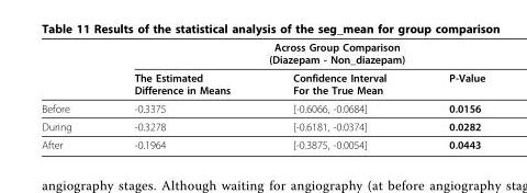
<table><thead><tr><td rowspan="2"></td><td colspan="3">Across Group Comparison (Diazepam - Non_diazepam)</td></tr><tr><td>The Estimated Difference in Means</td><td>Confidence Interval For the True Mean</td><td>P-Value</td></tr></thead><tbody><tr><td>Before</td><td>-0.3375</td><td>[-0.6066, -0.0684]</td><td>0.0156</td></tr><tr><td>During</td><td>-0.3278</td><td>[-0.6181, -0.0374]</td><td>0.0282</td></tr><tr><td>After</td><td>-0.1964</td><td>[-0.3875, -0.0054]</td><td>0.0443</td></tr></tbody></table>